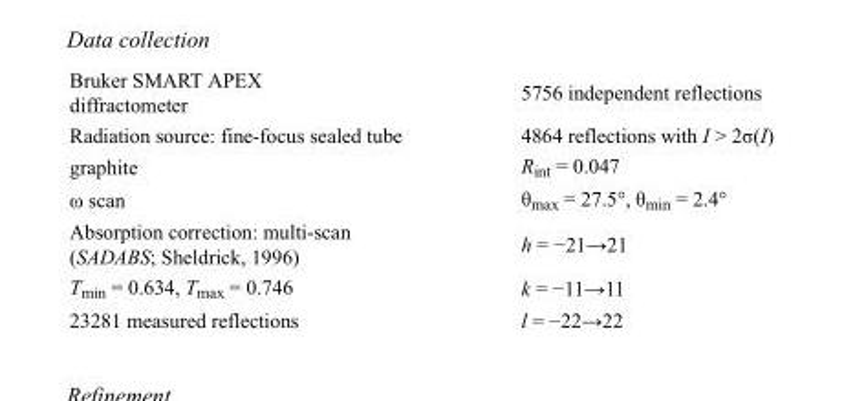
<table><tbody><tr><td>Bruker SMART APEX diffractometer</td><td>5756 independent reflections</td></tr><tr><td>Radiation source: fine-focus sealed tube</td><td>4864 reflections with I &gt; 2σ(I)</td></tr><tr><td>graphite</td><td>R<sub>int</sub> = 0.047</td></tr><tr><td>ω scan</td><td>θ<sub>max</sub> = 27.5°, θ<sub>min</sub> = 2.4°</td></tr><tr><td>Absorption correction: multi-scan (SADABS; Sheldrick, 1996)</td><td>h = −21→21</td></tr><tr><td>T<sub>min</sub> = 0.634, T<sub>max</sub> = 0.746</td><td>k = −11→11</td></tr><tr><td>23281 measured reflections</td><td>l = −22→22</td></tr></tbody></table>